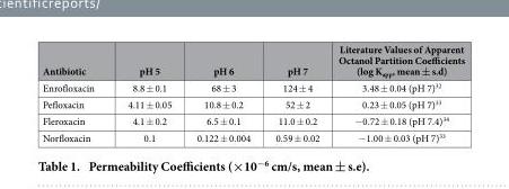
<table><thead><tr><td>Antibiotic</td><td>pH 5</td><td>pH 6</td><td>pH 7</td><td>Literature Values of Apparent Octanol Partition Coefficients (log K<sub>app</sub>, mean ± s.d)</td></tr></thead><tbody><tr><td>Enrofloxacin</td><td>8.8 ± 0.1</td><td>68 ± 3</td><td>124 ± 4</td><td>3.48 ± 0.04 (pH 7)<sup>32</sup></td></tr><tr><td>Pefloxacin</td><td>4.11 ± 0.05</td><td>10.8 ± 0.2</td><td>52 ± 2</td><td>0.23 ± 0.05 (pH 7)<sup>33</sup></td></tr><tr><td>Fleroxacin</td><td>4.1 ± 0.2</td><td>6.5 ± 0.1</td><td>11.0 ± 0.2</td><td>− 0.72 ± 0.18 (pH 7.4)<sup>34</sup></td></tr><tr><td>Norfloxacin</td><td>0.1</td><td>0.122 ± 0.004</td><td>0.59 ± 0.02</td><td>− 1.00 ± 0.03 (pH 7)<sup>33</sup></td></tr></tbody></table>